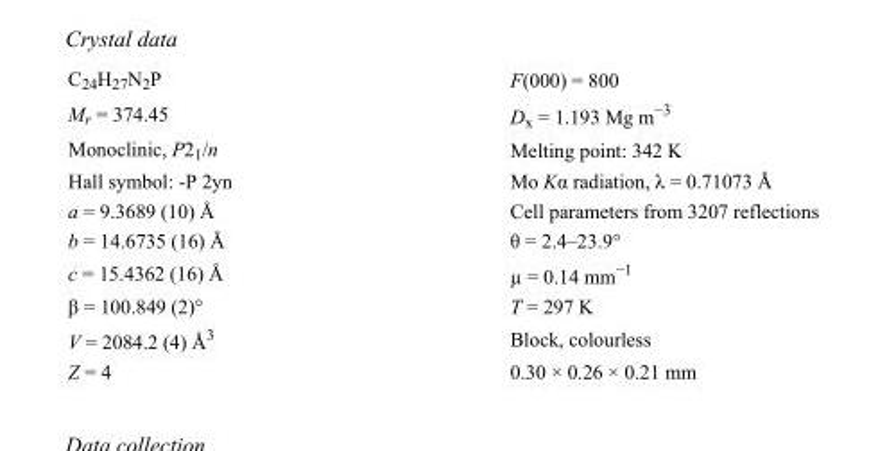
<table><tbody><tr><td>C<sub>24</sub>H<sub>27</sub>N<sub>2</sub>P</td><td>F(000) = 800</td></tr><tr><td>M<sub>r</sub> = 374.45</td><td>D<sub>x</sub> = 1.193 Mg m<sup>−3</sup></td></tr><tr><td>Monoclinic, P2<sub>1</sub>/n</td><td>Melting point: 342 K</td></tr><tr><td>Hall symbol: -P 2yn</td><td>Mo Kα radiation, λ = 0.71073 Å</td></tr><tr><td>a = 9.3689 (10) Å</td><td>Cell parameters from 3207 reflections</td></tr><tr><td>b = 14.6735 (16) Å</td><td>θ = 2.4–23.9°</td></tr><tr><td>c = 15.4362 (16) Å</td><td>µ = 0.14 mm<sup>−1</sup></td></tr><tr><td>β = 100.849 (2)°</td><td>T = 297 K</td></tr><tr><td>V = 2084.2 (4) Å<sup>3</sup></td><td>Block, colourless</td></tr><tr><td>Z = 4</td><td>0.30 × 0.26 × 0.21 mm</td></tr></tbody></table>